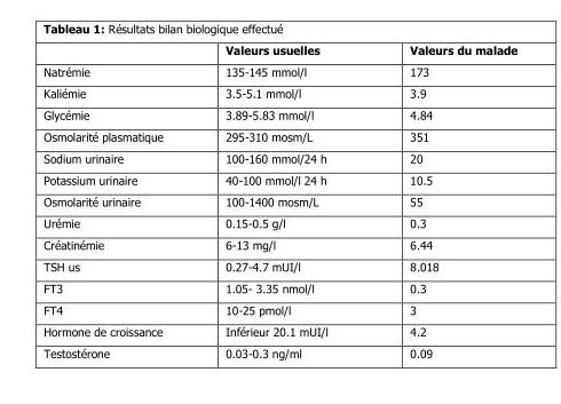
<table><thead><tr><td></td><td>Valeurs usuelles</td><td>Valeurs du malade</td></tr></thead><tbody><tr><td>Natrémie</td><td>135-145 mmol/l</td><td>173</td></tr><tr><td>Kaliémie</td><td>3.5-5.1 mmol/l</td><td>3.9</td></tr><tr><td>Glycémie</td><td>3.89-5.83 mmol/l</td><td>4.84</td></tr><tr><td>Osmolarité plasmatique</td><td>295-310 mosm/L</td><td>351</td></tr><tr><td>Sodium urinaire</td><td>100-160 mmol/24 h</td><td>20</td></tr><tr><td>Potassium urinaire</td><td>40-100 mmol/l 24 h</td><td>10.5</td></tr><tr><td>Osmolarité urinaire</td><td>100-1400 mosm/L</td><td>55</td></tr><tr><td>Urémie</td><td>0.15-0.5 g/l</td><td>0.3</td></tr><tr><td>Créatinémie</td><td>6-13 mg/l</td><td>6.44</td></tr><tr><td>TSH us</td><td>0.27-4.7 mUI/l</td><td>8.018</td></tr><tr><td>FT3</td><td>1.05- 3.35 nmol/l</td><td>0.3</td></tr><tr><td>FT4</td><td>10-25 pmol/l</td><td>3</td></tr><tr><td>Hormone de croissance</td><td>Inférieur 20.1 mUI/l</td><td>4.2</td></tr><tr><td>Testostérone</td><td>0.03-0.3 ng/ml</td><td>0.09</td></tr></tbody></table>